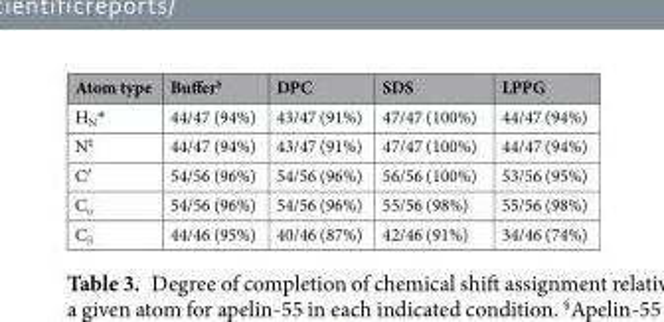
<table><thead><tr><td>Atom type</td><td>Buffer<sup>§</sup></td><td>DPC</td><td>SDS</td><td>LPPG</td></tr></thead><tbody><tr><td>H<sub>N</sub>*</td><td>44/47 (94%)</td><td>43/47 (91%)</td><td>47/47 (100%)</td><td>44/47 (94%)</td></tr><tr><td>N<sup>‡</sup></td><td>44/47 (94%)</td><td>43/47 (91%)</td><td>47/47 (100%)</td><td>44/47 (94%)</td></tr><tr><td>C′</td><td>54/56 (96%)</td><td>54/56 (96%)</td><td>56/56 (100%)</td><td>53/56 (95%)</td></tr><tr><td>C<sub>α</sub></td><td>54/56 (96%)</td><td>54/56 (96%)</td><td>55/56 (98%)</td><td>55/56 (98%)</td></tr><tr><td>C<sub>β</sub></td><td>44/46 (95%)</td><td>40/46 (87%)</td><td>42/46 (91%)</td><td>34/46 (74%)</td></tr></tbody></table>